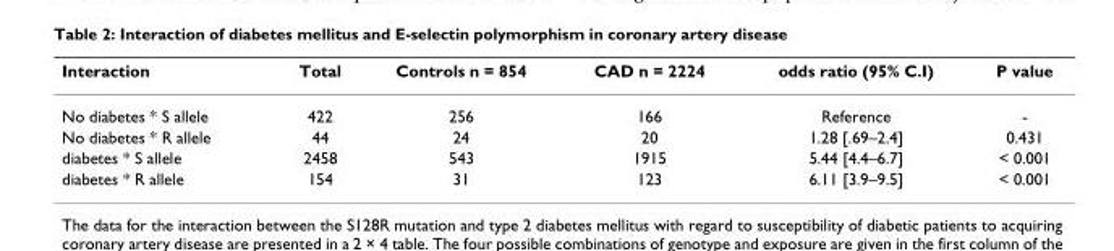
<table><thead><tr><td>Interaction</td><td>Total</td><td>Controls n = 854</td><td>CAD n = 2224</td><td>odds ratio (95% C.I)</td><td>P value</td></tr></thead><tbody><tr><td>No diabetes * S allele</td><td>422</td><td>256</td><td>166</td><td>Reference</td><td>-</td></tr><tr><td>No diabetes * R allele</td><td>44</td><td>24</td><td>20</td><td>1.28 [.69–2.4]</td><td>0.431</td></tr><tr><td>diabetes * S allele</td><td>2458</td><td>543</td><td>1915</td><td>5.44 [4.4–6.7]</td><td>&lt; 0.001</td></tr><tr><td>diabetes * R allele</td><td>154</td><td>31</td><td>123</td><td>6.11 [3.9–9.5]</td><td>&lt; 0.001</td></tr></tbody></table>